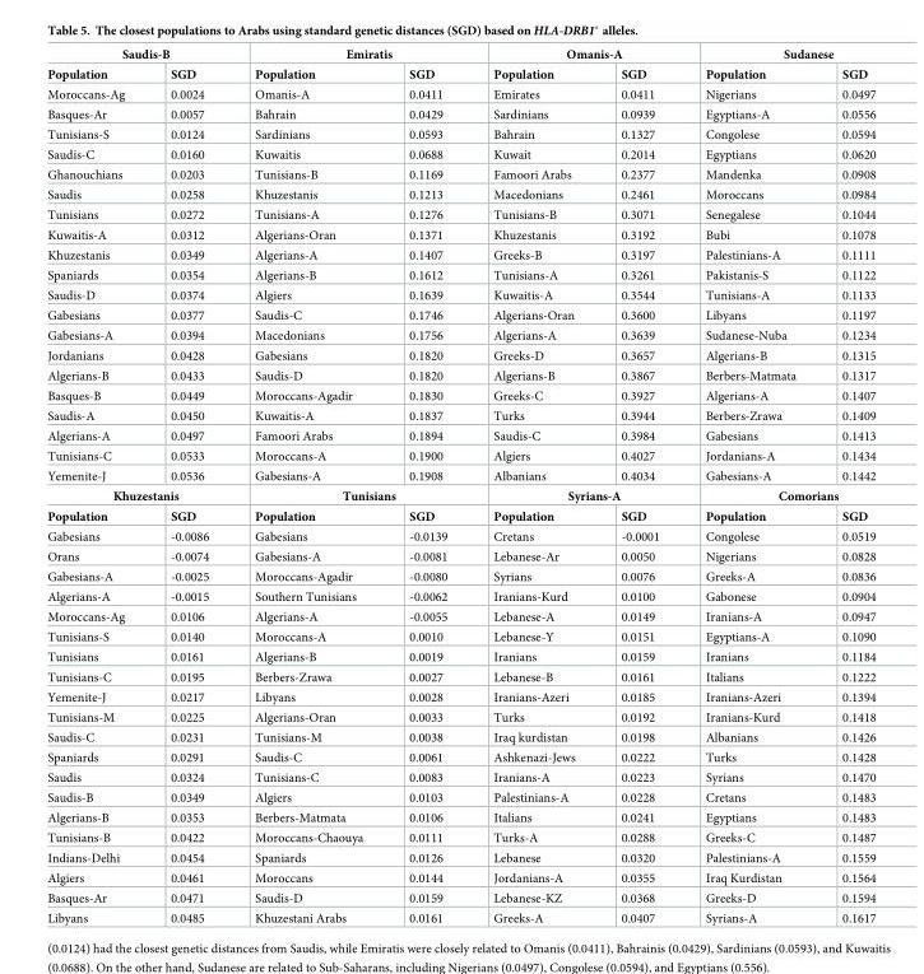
<table><tbody><tr><td colspan="2">Saudis-B</td><td colspan="2">Emiratis</td><td colspan="2">Omanis-A</td><td colspan="2">Sudanese</td></tr><tr><td>Population</td><td>SGD</td><td>Population</td><td>SGD</td><td>Population</td><td>SGD</td><td>Population</td><td>SGD</td></tr><tr><td>Moroccans-Ag</td><td>0.0024</td><td>Omanis-A</td><td>0.0411</td><td>Emirates</td><td>0.0411</td><td>Nigerians</td><td>0.0497</td></tr><tr><td>Basques-Ar</td><td>0.0057</td><td>Bahrain</td><td>0.0429</td><td>Sardinians</td><td>0.0939</td><td>Egyptians-A</td><td>0.0556</td></tr><tr><td>Tunisians-S</td><td>0.0124</td><td>Sardinians</td><td>0.0593</td><td>Bahrain</td><td>0.1327</td><td>Congolese</td><td>0.0594</td></tr><tr><td>Saudis-C</td><td>0.0160</td><td>Kuwaitis</td><td>0.0688</td><td>Kuwait</td><td>0.2014</td><td>Egyptians</td><td>0.0620</td></tr><tr><td>Ghanouchians</td><td>0.0203</td><td>Tunisians-B</td><td>0.1169</td><td>Famoori Arabs</td><td>0.2377</td><td>Mandenka</td><td>0.0908</td></tr><tr><td>Saudis</td><td>0.0258</td><td>Khuzestanis</td><td>0.1213</td><td>Macedonians</td><td>0.2461</td><td>Moroccans</td><td>0.0984</td></tr><tr><td>Tunisians</td><td>0.0272</td><td>Tunisians-A</td><td>0.1276</td><td>Tunisians-B</td><td>0.3071</td><td>Senegalese</td><td>0.1044</td></tr><tr><td>Kuwaitis-A</td><td>0.0312</td><td>Algerians-Oran</td><td>0.1371</td><td>Khuzestanis</td><td>0.3192</td><td>Bubi</td><td>0.1078</td></tr><tr><td>Khuzestanis</td><td>0.0349</td><td>Algerians-A</td><td>0.1407</td><td>Greeks-B</td><td>0.3197</td><td>Palestinians-A</td><td>0.1111</td></tr><tr><td>Spaniards</td><td>0.0354</td><td>Algerians-B</td><td>0.1612</td><td>Tunisians-A</td><td>0.3261</td><td>Pakistanis-S</td><td>0.1122</td></tr><tr><td>Saudis-D</td><td>0.0374</td><td>Algiers</td><td>0.1639</td><td>Kuwaitis-A</td><td>0.3544</td><td>Tunisians-A</td><td>0.1133</td></tr><tr><td>Gabesians</td><td>0.0377</td><td>Saudis-C</td><td>0.1746</td><td>Algerians-Oran</td><td>0.3600</td><td>Libyans</td><td>0.1197</td></tr><tr><td>Gabesians-A</td><td>0.0394</td><td>Macedonians</td><td>0.1756</td><td>Algerians-A</td><td>0.3639</td><td>Sudanese-Nuba</td><td>0.1234</td></tr><tr><td>Jordanians</td><td>0.0428</td><td>Gabesians</td><td>0.1820</td><td>Greeks-D</td><td>0.3657</td><td>Algerians-B</td><td>0.1315</td></tr><tr><td>Algerians-B</td><td>0.0433</td><td>Saudis-D</td><td>0.1820</td><td>Algerians-B</td><td>0.3867</td><td>Berbers-Matmata</td><td>0.1317</td></tr><tr><td>Basques-B</td><td>0.0449</td><td>Moroccans-Agadir</td><td>0.1830</td><td>Greeks-C</td><td>0.3927</td><td>Algerians-A</td><td>0.1407</td></tr><tr><td>Saudis-A</td><td>0.0450</td><td>Kuwaitis-A</td><td>0.1837</td><td>Turks</td><td>0.3944</td><td>Berbers-Zrawa</td><td>0.1409</td></tr><tr><td>Algerians-A</td><td>0.0497</td><td>Famoori Arabs</td><td>0.1894</td><td>Saudis-C</td><td>0.3984</td><td>Gabesians</td><td>0.1413</td></tr><tr><td>Tunisians-C</td><td>0.0533</td><td>Moroccans-A</td><td>0.1900</td><td>Algiers</td><td>0.4027</td><td>Jordanians-A</td><td>0.1434</td></tr><tr><td>Yemenite-J</td><td>0.0536</td><td>Gabesians-A</td><td>0.1908</td><td>Albanians</td><td>0.4034</td><td>Gabesians-A</td><td>0.1442</td></tr><tr><td colspan="2">Khuzestanis</td><td colspan="2">Tunisians</td><td colspan="2">Syrians-A</td><td colspan="2">Comorians</td></tr><tr><td>Population</td><td>SGD</td><td>Population</td><td>SGD</td><td>Population</td><td>SGD</td><td>Population</td><td>SGD</td></tr><tr><td>Gabesians</td><td>-0.0086</td><td>Gabesians</td><td>-0.0139</td><td>Cretans</td><td>-0.0001</td><td>Congolese</td><td>0.0519</td></tr><tr><td>Orans</td><td>-0.0074</td><td>Gabesians-A</td><td>-0.0081</td><td>Lebanese-Ar</td><td>0.0050</td><td>Nigerians</td><td>0.0828</td></tr><tr><td>Gabesians-A</td><td>-0.0025</td><td>Moroccans-Agadir</td><td>-0.0080</td><td>Syrians</td><td>0.0076</td><td>Greeks-A</td><td>0.0836</td></tr><tr><td>Algerians-A</td><td>-0.0015</td><td>Southern Tunisians</td><td>-0.0062</td><td>Iranians-Kurd</td><td>0.0100</td><td>Gabonese</td><td>0.0904</td></tr><tr><td>Moroccans-Ag</td><td>0.0106</td><td>Algerians-A</td><td>-0.0055</td><td>Lebanese-A</td><td>0.0149</td><td>Iranians-A</td><td>0.0947</td></tr><tr><td>Tunisians-S</td><td>0.0140</td><td>Moroccans-A</td><td>0.0010</td><td>Lebanese-Y</td><td>0.0151</td><td>Egyptians-A</td><td>0.1090</td></tr><tr><td>Tunisians</td><td>0.0161</td><td>Algerians-B</td><td>0.0019</td><td>Iranians</td><td>0.0159</td><td>Iranians</td><td>0.1184</td></tr><tr><td>Tunisians-C</td><td>0.0195</td><td>Berbers-Zrawa</td><td>0.0027</td><td>Lebanese-B</td><td>0.0161</td><td>Italians</td><td>0.1222</td></tr><tr><td>Yemenite-J</td><td>0.0217</td><td>Libyans</td><td>0.0028</td><td>Iranians-Azeri</td><td>0.0185</td><td>Iranians-Azeri</td><td>0.1394</td></tr><tr><td>Tunisians-M</td><td>0.0225</td><td>Algerians-Oran</td><td>0.0033</td><td>Turks</td><td>0.0192</td><td>Iranians-Kurd</td><td>0.1418</td></tr><tr><td>Saudis-C</td><td>0.0231</td><td>Tunisians-M</td><td>0.0038</td><td>Iraq kurdistan</td><td>0.0198</td><td>Albanians</td><td>0.1426</td></tr><tr><td>Spaniards</td><td>0.0291</td><td>Saudis-C</td><td>0.0061</td><td>Ashkenazi-Jews</td><td>0.0222</td><td>Turks</td><td>0.1428</td></tr><tr><td>Saudis</td><td>0.0324</td><td>Tunisians-C</td><td>0.0083</td><td>Iranians-A</td><td>0.0223</td><td>Syrians</td><td>0.1470</td></tr><tr><td>Saudis-B</td><td>0.0349</td><td>Algiers</td><td>0.0103</td><td>Palestinians-A</td><td>0.0228</td><td>Cretans</td><td>0.1483</td></tr><tr><td>Algerians-B</td><td>0.0353</td><td>Berbers-Matmata</td><td>0.0106</td><td>Italians</td><td>0.0241</td><td>Egyptians</td><td>0.1483</td></tr><tr><td>Tunisians-B</td><td>0.0422</td><td>Moroccans-Chaouya</td><td>0.0111</td><td>Turks-A</td><td>0.0288</td><td>Greeks-C</td><td>0.1487</td></tr><tr><td>Indians-Delhi</td><td>0.0454</td><td>Spaniards</td><td>0.0126</td><td>Lebanese</td><td>0.0320</td><td>Palestinians-A</td><td>0.1559</td></tr><tr><td>Algiers</td><td>0.0461</td><td>Moroccans</td><td>0.0144</td><td>Jordanians-A</td><td>0.0355</td><td>Iraq Kurdistan</td><td>0.1564</td></tr><tr><td>Basques-Ar</td><td>0.0471</td><td>Saudis-D</td><td>0.0159</td><td>Lebanese-KZ</td><td>0.0368</td><td>Greeks-D</td><td>0.1594</td></tr><tr><td>Libyans</td><td>0.0485</td><td>Khuzestani Arabs</td><td>0.0161</td><td>Greeks-A</td><td>0.0407</td><td>Syrians-A</td><td>0.1617</td></tr></tbody></table>